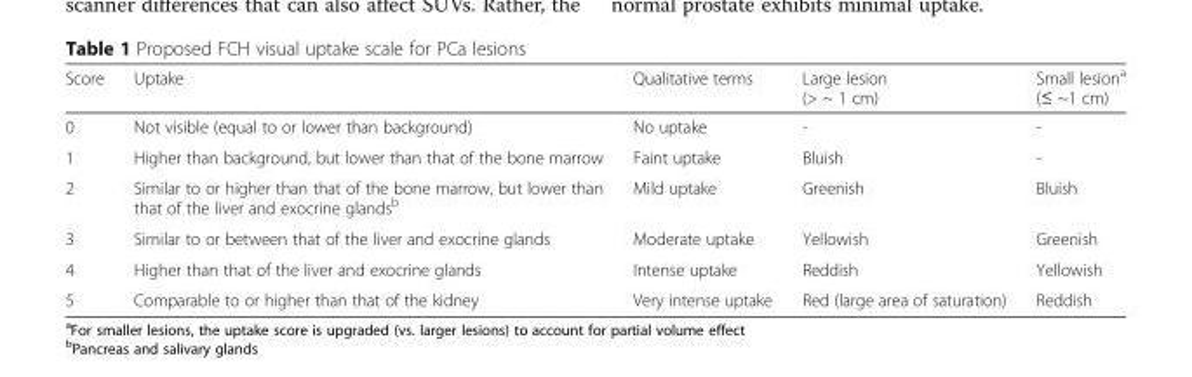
<table><thead><tr><td>Score</td><td>Uptake</td><td>Qualitative terms</td><td>Large lesion (&gt; ~ 1 cm)</td><td>Small lesion<sup>a</sup> (≤ ~1 cm)</td></tr></thead><tbody><tr><td>0</td><td>Not visible (equal to or lower than background)</td><td>No uptake</td><td>-</td><td>-</td></tr><tr><td>1</td><td>Higher than background, but lower than that of the bone marrow</td><td>Faint uptake</td><td>Bluish</td><td>-</td></tr><tr><td>2</td><td>Similar to or higher than that of the bone marrow, but lower than that of the liver and exocrine glands<sup>b</sup></td><td>Mild uptake</td><td>Greenish</td><td>Bluish</td></tr><tr><td>3</td><td>Similar to or between that of the liver and exocrine glands</td><td>Moderate uptake</td><td>Yellowish</td><td>Greenish</td></tr><tr><td>4</td><td>Higher than that of the liver and exocrine glands</td><td>Intense uptake</td><td>Reddish</td><td>Yellowish</td></tr><tr><td>5</td><td>Comparable to or higher than that of the kidney</td><td>Very intense uptake</td><td>Red (large area of saturation)</td><td>Reddish</td></tr></tbody></table>